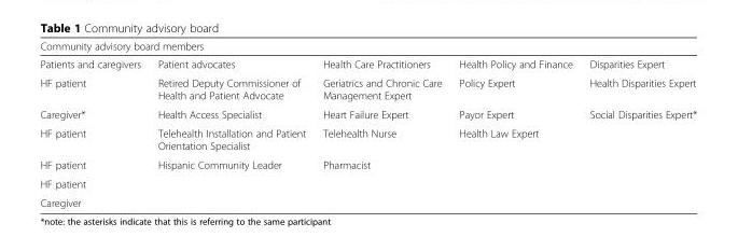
<table><thead><tr><td colspan="5">Community advisory board members</td></tr><tr><td>Patients and caregivers</td><td>Patient advocates</td><td>Health Care Practitioners</td><td>Health Policy and Finance</td><td>Disparities Expert</td></tr></thead><tbody><tr><td>HF patient</td><td>Retired Deputy Commissioner of Health and Patient Advocate</td><td>Geriatrics and Chronic Care Management Expert</td><td>Policy Expert</td><td>Health Disparities Expert</td></tr><tr><td>Caregiver*</td><td>Health Access Specialist</td><td>Heart Failure Expert</td><td>Payor Expert</td><td>Social Disparities Expert*</td></tr><tr><td>HF patient</td><td>Telehealth Installation and Patient Orientation Specialist</td><td>Telehealth Nurse</td><td>Health Law Expert</td><td></td></tr><tr><td>HF patient</td><td>Hispanic Community Leader</td><td>Pharmacist</td><td></td><td></td></tr><tr><td colspan="5">HF patient</td></tr><tr><td colspan="5">Caregiver</td></tr></tbody></table>